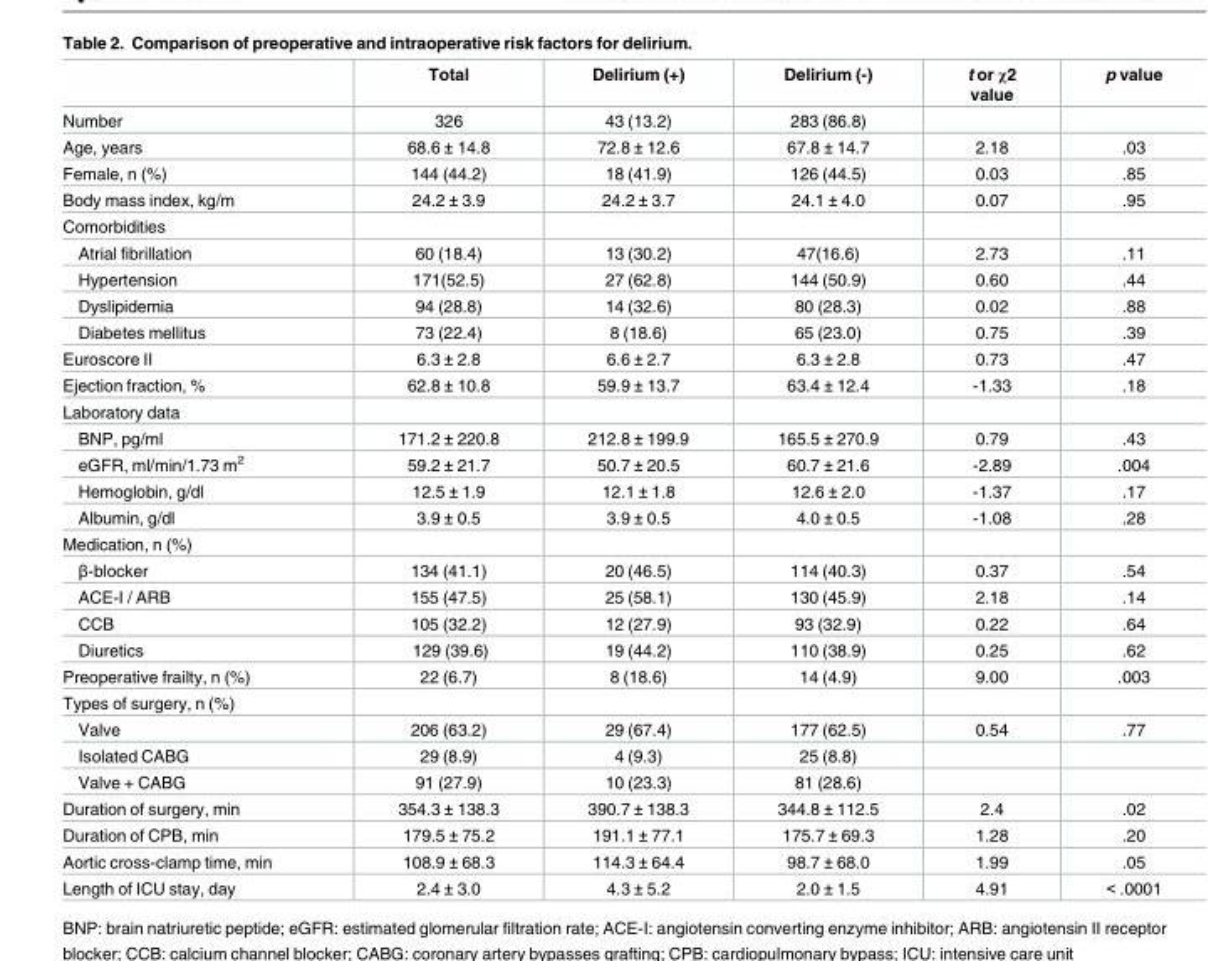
<table><thead><tr><td></td><td>Total</td><td>Delirium (+)</td><td>Delirium (-)</td><td>t or χ2 value</td><td>p value</td></tr></thead><tbody><tr><td>Number</td><td>326</td><td>43 (13.2)</td><td>283 (86.8)</td><td></td><td></td></tr><tr><td>Age, years</td><td>68.6 ± 14.8</td><td>72.8 ± 12.6</td><td>67.8 ± 14.7</td><td>2.18</td><td>.03</td></tr><tr><td>Female, n (%)</td><td>144 (44.2)</td><td>18 (41.9)</td><td>126 (44.5)</td><td>0.03</td><td>.85</td></tr><tr><td>Body mass index, kg/m</td><td>24.2 ± 3.9</td><td>24.2 ± 3.7</td><td>24.1 ± 4.0</td><td>0.07</td><td>.95</td></tr><tr><td colspan="6">Comorbidities</td></tr><tr><td>Atrial fibrillation</td><td>60 (18.4)</td><td>13 (30.2)</td><td>47(16.6)</td><td>2.73</td><td>.11</td></tr><tr><td>Hypertension</td><td>171(52.5)</td><td>27 (62.8)</td><td>144 (50.9)</td><td>0.60</td><td>.44</td></tr><tr><td>Dyslipidemia</td><td>94 (28.8)</td><td>14 (32.6)</td><td>80 (28.3)</td><td>0.02</td><td>.88</td></tr><tr><td>Diabetes mellitus</td><td>73 (22.4)</td><td>8 (18.6)</td><td>65 (23.0)</td><td>0.75</td><td>.39</td></tr><tr><td>Euroscore II</td><td>6.3 ± 2.8</td><td>6.6 ± 2.7</td><td>6.3 ± 2.8</td><td>0.73</td><td>.47</td></tr><tr><td>Ejection fraction, %</td><td>62.8 ± 10.8</td><td>59.9 ± 13.7</td><td>63.4 ± 12.4</td><td>-1.33</td><td>.18</td></tr><tr><td colspan="6">Laboratory data</td></tr><tr><td>BNP, pg/ml</td><td>171.2 ± 220.8</td><td>212.8 ± 199.9</td><td>165.5 ± 270.9</td><td>0.79</td><td>.43</td></tr><tr><td>eGFR, ml/min/1.73 m<sup>2</sup></td><td>59.2 ± 21.7</td><td>50.7 ± 20.5</td><td>60.7 ± 21.6</td><td>-2.89</td><td>.004</td></tr><tr><td>Hemoglobin, g/dl</td><td>12.5 ± 1.9</td><td>12.1 ± 1.8</td><td>12.6 ± 2.0</td><td>-1.37</td><td>.17</td></tr><tr><td>Albumin, g/dl</td><td>3.9 ± 0.5</td><td>3.9 ± 0.5</td><td>4.0 ± 0.5</td><td>-1.08</td><td>.28</td></tr><tr><td colspan="6">Medication, n (%)</td></tr><tr><td>β-blocker</td><td>134 (41.1)</td><td>20 (46.5)</td><td>114 (40.3)</td><td>0.37</td><td>.54</td></tr><tr><td>ACE-I / ARB</td><td>155 (47.5)</td><td>25 (58.1)</td><td>130 (45.9)</td><td>2.18</td><td>.14</td></tr><tr><td>CCB</td><td>105 (32.2)</td><td>12 (27.9)</td><td>93 (32.9)</td><td>0.22</td><td>.64</td></tr><tr><td>Diuretics</td><td>129 (39.6)</td><td>19 (44.2)</td><td>110 (38.9)</td><td>0.25</td><td>.62</td></tr><tr><td>Preoperative frailty, n (%)</td><td>22 (6.7)</td><td>8 (18.6)</td><td>14 (4.9)</td><td>9.00</td><td>.003</td></tr><tr><td colspan="6">Types of surgery, n (%)</td></tr><tr><td>Valve</td><td>206 (63.2)</td><td>29 (67.4)</td><td>177 (62.5)</td><td>0.54</td><td>.77</td></tr><tr><td>Isolated CABG</td><td>29 (8.9)</td><td>4 (9.3)</td><td>25 (8.8)</td><td></td><td></td></tr><tr><td>Valve + CABG</td><td>91 (27.9)</td><td>10 (23.3)</td><td>81 (28.6)</td><td></td><td></td></tr><tr><td>Duration of surgery, min</td><td>354.3 ± 138.3</td><td>390.7 ± 138.3</td><td>344.8 ± 112.5</td><td>2.4</td><td>.02</td></tr><tr><td>Duration of CPB, min</td><td>179.5 ± 75.2</td><td>191.1 ± 77.1</td><td>175.7 ± 69.3</td><td>1.28</td><td>.20</td></tr><tr><td>Aortic cross-clamp time, min</td><td>108.9 ± 68.3</td><td>114.3 ± 64.4</td><td>98.7 ± 68.0</td><td>1.99</td><td>.05</td></tr><tr><td>Length of ICU stay, day</td><td>2.4 ± 3.0</td><td>4.3 ± 5.2</td><td>2.0 ± 1.5</td><td>4.91</td><td>&lt; .0001</td></tr></tbody></table>